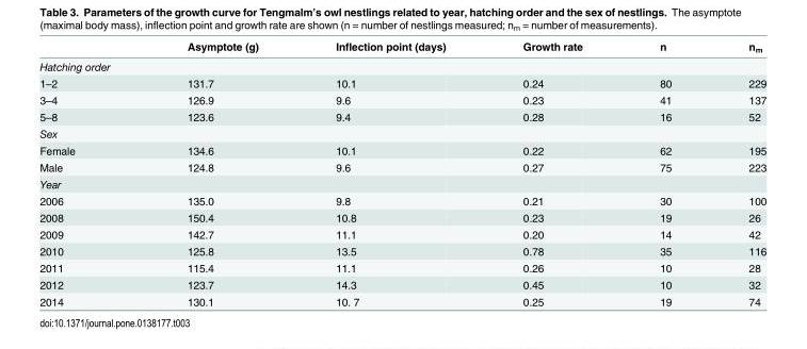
<table><thead><tr><td></td><td>Asymptote (g)</td><td>Inflection point (days)</td><td>Growth rate</td><td>n</td><td>n<sub>m</sub></td></tr></thead><tbody><tr><td colspan="6">Hatching order</td></tr><tr><td>1–2</td><td>131.7</td><td>10.1</td><td>0.24</td><td>80</td><td>229</td></tr><tr><td>3–4</td><td>126.9</td><td>9.6</td><td>0.23</td><td>41</td><td>137</td></tr><tr><td>5–8</td><td>123.6</td><td>9.4</td><td>0.28</td><td>16</td><td>52</td></tr><tr><td colspan="6">Sex</td></tr><tr><td>Female</td><td>134.6</td><td>10.1</td><td>0.22</td><td>62</td><td>195</td></tr><tr><td>Male</td><td>124.8</td><td>9.6</td><td>0.27</td><td>75</td><td>223</td></tr><tr><td colspan="6">Year</td></tr><tr><td>2006</td><td>135.0</td><td>9.8</td><td>0.21</td><td>30</td><td>100</td></tr><tr><td>2008</td><td>150.4</td><td>10.8</td><td>0.23</td><td>19</td><td>26</td></tr><tr><td>2009</td><td>142.7</td><td>11.1</td><td>0.20</td><td>14</td><td>42</td></tr><tr><td>2010</td><td>125.8</td><td>13.5</td><td>0.78</td><td>35</td><td>116</td></tr><tr><td>2011</td><td>115.4</td><td>11.1</td><td>0.26</td><td>10</td><td>28</td></tr><tr><td>2012</td><td>123.7</td><td>14.3</td><td>0.45</td><td>10</td><td>32</td></tr><tr><td>2014</td><td>130.1</td><td>10. 7</td><td>0.25</td><td>19</td><td>74</td></tr></tbody></table>